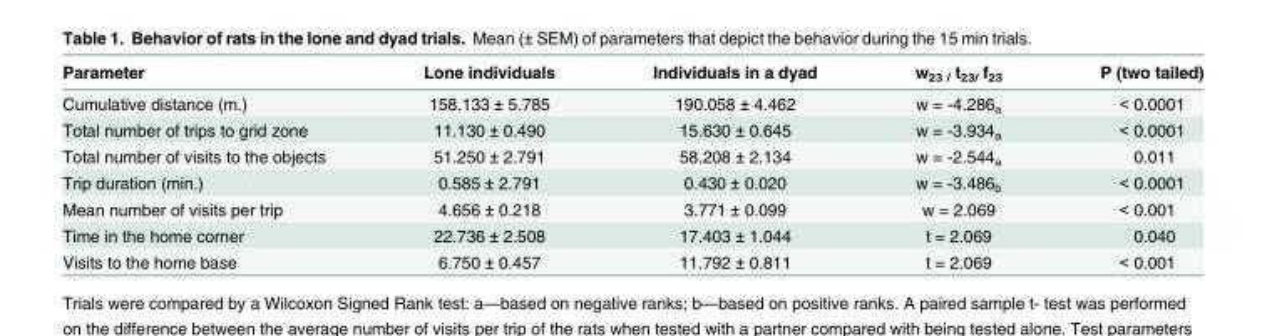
<table><thead><tr><td>Parameter</td><td>Lone individuals</td><td>Individuals in a dyad</td><td>w<sub>23 /</sub> t<sub>23/</sub> f<sub>23</sub></td><td>P (two tailed)</td></tr></thead><tbody><tr><td>Cumulative distance (m.)</td><td>158.133 ± 5.785</td><td>190.058 ± 4.462</td><td>w = -4.286<sub>a</sub></td><td>&lt; 0.0001</td></tr><tr><td>Total number of trips to grid zone</td><td>11.130 ± 0.490</td><td>15.630 ± 0.645</td><td>w = -3.934<sub>a</sub></td><td>&lt; 0.0001</td></tr><tr><td>Total number of visits to the objects</td><td>51.250 ± 2.791</td><td>58.208 ± 2.134</td><td>w = -2.544<sub>a</sub></td><td>0.011</td></tr><tr><td>Trip duration (min.)</td><td>0.585 ± 2.791</td><td>0.430 ± 0.020</td><td>w = -3.486<sub>b</sub></td><td>&lt; 0.0001</td></tr><tr><td>Mean number of visits per trip</td><td>4.656 ± 0.218</td><td>3.771 ± 0.099</td><td>w = 2.069</td><td>&lt; 0.001</td></tr><tr><td>Time in the home corner</td><td>22.736 ± 2.508</td><td>17.403 ± 1.044</td><td>t = 2.069</td><td>0.040</td></tr><tr><td>Visits to the home base</td><td>6.750 ± 0.457</td><td>11.792 ± 0.811</td><td>t = 2.069</td><td>&lt; 0.001</td></tr></tbody></table>